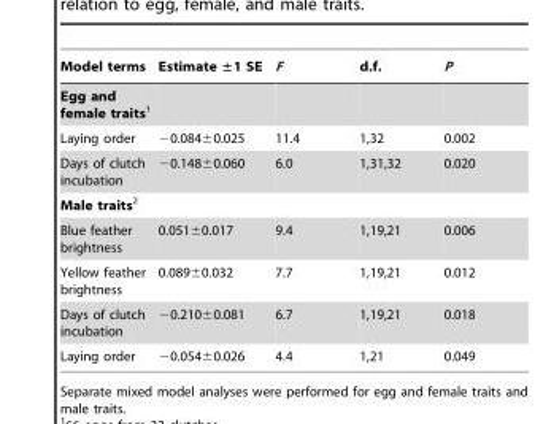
<table><thead><tr><td>Model terms</td><td>Estimate ±1 SE</td><td>F</td><td>d.f.</td><td>P</td></tr></thead><tbody><tr><td colspan="5">Egg and female traits1</td></tr><tr><td>Laying order</td><td>−0.084±0.025</td><td>11.4</td><td>1,32</td><td>0.002</td></tr><tr><td>Days of clutch incubation</td><td>−0.148±0.060</td><td>6.0</td><td>1,31,32</td><td>0.020</td></tr><tr><td colspan="5">Male traits2</td></tr><tr><td>Blue feather brightness</td><td>0.051±0.017</td><td>9.4</td><td>1,19,21</td><td>0.006</td></tr><tr><td>Yellow feather brightness</td><td>0.089±0.032</td><td>7.7</td><td>1,19,21</td><td>0.012</td></tr><tr><td>Days of clutch incubation</td><td>−0.210±0.081</td><td>6.7</td><td>1,19,21</td><td>0.018</td></tr><tr><td>Laying order</td><td>−0.054±0.026</td><td>4.4</td><td>1,21</td><td>0.049</td></tr></tbody></table>